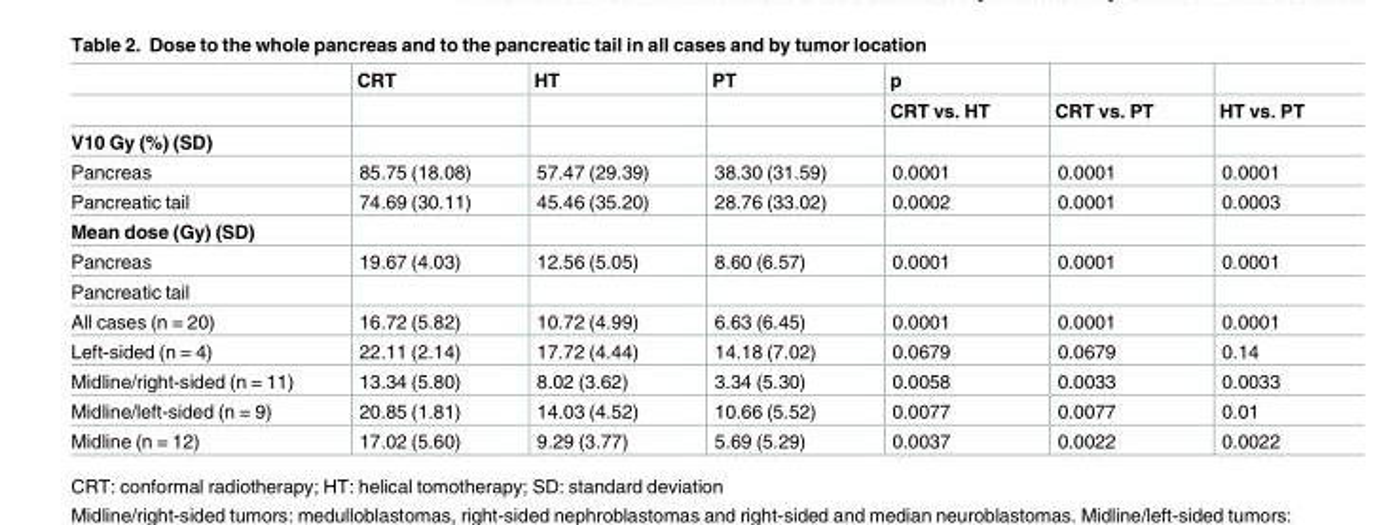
<table><thead><tr><td rowspan="2"></td><td rowspan="2">CRT</td><td rowspan="2">HT</td><td rowspan="2">PT</td><td rowspan="2">p CRT vs. HT</td><td rowspan="2">CRT vs. PT</td><td rowspan="2">HT vs. PT</td></tr><tr></tr></thead><tbody><tr><td colspan="7">V10 Gy (%) (SD)</td></tr><tr><td>Pancreas</td><td>85.75 (18.08)</td><td>57.47 (29.39)</td><td>38.30 (31.59)</td><td>0.0001</td><td>0.0001</td><td>0.0001</td></tr><tr><td>Pancreatic tail</td><td>74.69 (30.11)</td><td>45.46 (35.20)</td><td>28.76 (33.02)</td><td>0.0002</td><td>0.0001</td><td>0.0003</td></tr><tr><td colspan="7">Mean dose (Gy) (SD)</td></tr><tr><td>Pancreas</td><td>19.67 (4.03)</td><td>12.56 (5.05)</td><td>8.60 (6.57)</td><td>0.0001</td><td>0.0001</td><td>0.0001</td></tr><tr><td colspan="7">Pancreatic tail</td></tr><tr><td>All cases (n = 20)</td><td>16.72 (5.82)</td><td>10.72 (4.99)</td><td>6.63 (6.45)</td><td>0.0001</td><td>0.0001</td><td>0.0001</td></tr><tr><td>Left-sided (n = 4)</td><td>22.11 (2.14)</td><td>17.72 (4.44)</td><td>14.18 (7.02)</td><td>0.0679</td><td>0.0679</td><td>0.14</td></tr><tr><td>Midline/right-sided (n = 11)</td><td>13.34 (5.80)</td><td>8.02 (3.62)</td><td>3.34 (5.30)</td><td>0.0058</td><td>0.0033</td><td>0.0033</td></tr><tr><td>Midline/left-sided (n = 9)</td><td>20.85 (1.81)</td><td>14.03 (4.52)</td><td>10.66 (5.52)</td><td>0.0077</td><td>0.0077</td><td>0.01</td></tr><tr><td>Midline (n = 12)</td><td>17.02 (5.60)</td><td>9.29 (3.77)</td><td>5.69 (5.29)</td><td>0.0037</td><td>0.0022</td><td>0.0022</td></tr></tbody></table>